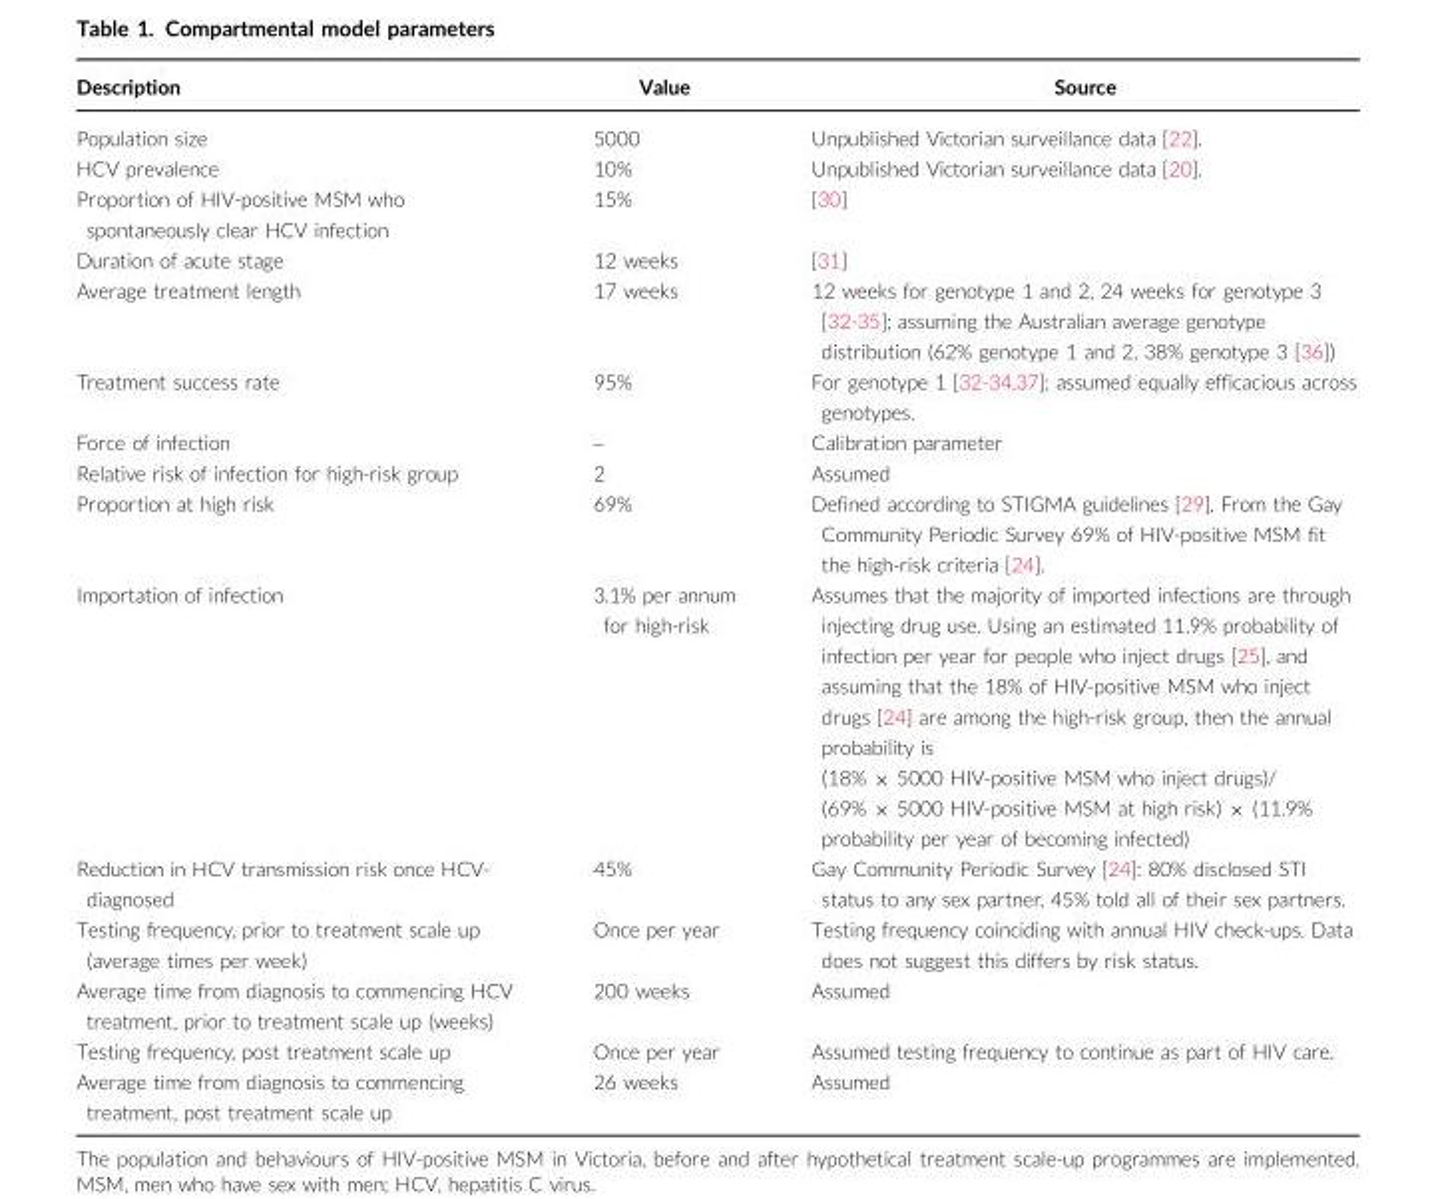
<table><thead><tr><td>Description</td><td>Value</td><td>Source</td></tr></thead><tbody><tr><td>Population size</td><td>5000</td><td>Unpublished Victorian surveillance data [22].</td></tr><tr><td>HCV prevalence</td><td>10%</td><td>Unpublished Victorian surveillance data [20].</td></tr><tr><td>Proportion of HIV-positive MSM who spontaneously clear HCV infection</td><td>15%</td><td>[30]</td></tr><tr><td>Duration of acute stage</td><td>12 weeks</td><td>[31]</td></tr><tr><td>Average treatment length</td><td>17 weeks</td><td>12 weeks for genotype 1 and 2, 24 weeks for genotype 3 [32-35]; assuming the Australian average genotype distribution (62% genotype 1 and 2, 38% genotype 3 [36])</td></tr><tr><td>Treatment success rate</td><td>95%</td><td>For genotype 1 [32-34,37]; assumed equally efficacious across genotypes.</td></tr><tr><td>Force of infection</td><td>–</td><td>Calibration parameter</td></tr><tr><td>Relative risk of infection for high-risk group</td><td>2</td><td>Assumed</td></tr><tr><td>Proportion at high risk</td><td>69%</td><td>Defined according to STIGMA guidelines [29]. From the Gay Community Periodic Survey 69% of HIV-positive MSM fit the high-risk criteria [24].</td></tr><tr><td>Importation of infection</td><td>3.1% per annum for high-risk</td><td>Assumes that the majority of imported infections are through injecting drug use. Using an estimated 11.9% probability of infection per year for people who inject drugs [25], and assuming that the 18% of HIV-positive MSM who inject drugs [24] are among the high-risk group, then the annual probability is (18% 9 5000 HIV-positive MSM who inject drugs)/ (69% 9 5000 HIV-positive MSM at high risk) 9 (11.9% probability per year of becoming infected)</td></tr><tr><td>Reduction in HCV transmission risk once HCV- diagnosed</td><td>45%</td><td>Gay Community Periodic Survey [24]: 80% disclosed STI status to any sex partner, 45% told all of their sex partners.</td></tr><tr><td>Testing frequency, prior to treatment scale up (average times per week)</td><td>Once per year</td><td>Testing frequency coinciding with annual HIV check-ups. Data does not suggest this differs by risk status.</td></tr><tr><td>Average time from diagnosis to commencing HCV treatment, prior to treatment scale up (weeks)</td><td>200 weeks</td><td>Assumed</td></tr><tr><td>Testing frequency, post treatment scale up</td><td>Once per year</td><td>Assumed testing frequency to continue as part of HIV care.</td></tr><tr><td>Average time from diagnosis to commencing treatment, post treatment scale up</td><td>26 weeks</td><td>Assumed</td></tr></tbody></table>